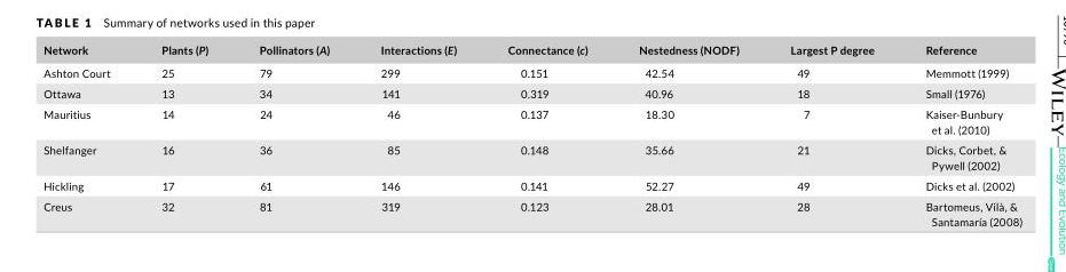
<table><thead><tr><td>Network</td><td>Plants (P)</td><td>Pollinators (A)</td><td>Interactions (E)</td><td>Connectance (c)</td><td>Nestedness (NODF)</td><td>Largest P degree</td><td>Reference</td></tr></thead><tbody><tr><td>Ashton Court</td><td>25</td><td>79</td><td>299</td><td>0.151</td><td>42.54</td><td>49</td><td>Memmott (1999)</td></tr><tr><td>Ottawa</td><td>13</td><td>34</td><td>141</td><td>0.319</td><td>40.96</td><td>18</td><td>Small (1976)</td></tr><tr><td>Mauritius</td><td>14</td><td>24</td><td>46</td><td>0.137</td><td>18.30</td><td>7</td><td>Kaiser- Bunbury et al. (2010)</td></tr><tr><td>Shelfanger</td><td>16</td><td>36</td><td>85</td><td>0.148</td><td>35.66</td><td>21</td><td>Dicks, Corbet, &amp; Pywell (2002)</td></tr><tr><td>Hickling</td><td>17</td><td>61</td><td>146</td><td>0.141</td><td>52.27</td><td>49</td><td>Dicks et al. (2002)</td></tr><tr><td>Creus</td><td>32</td><td>81</td><td>319</td><td>0.123</td><td>28.01</td><td>28</td><td>Bartomeus, Vilà, &amp; Santamaría (2008)</td></tr></tbody></table>